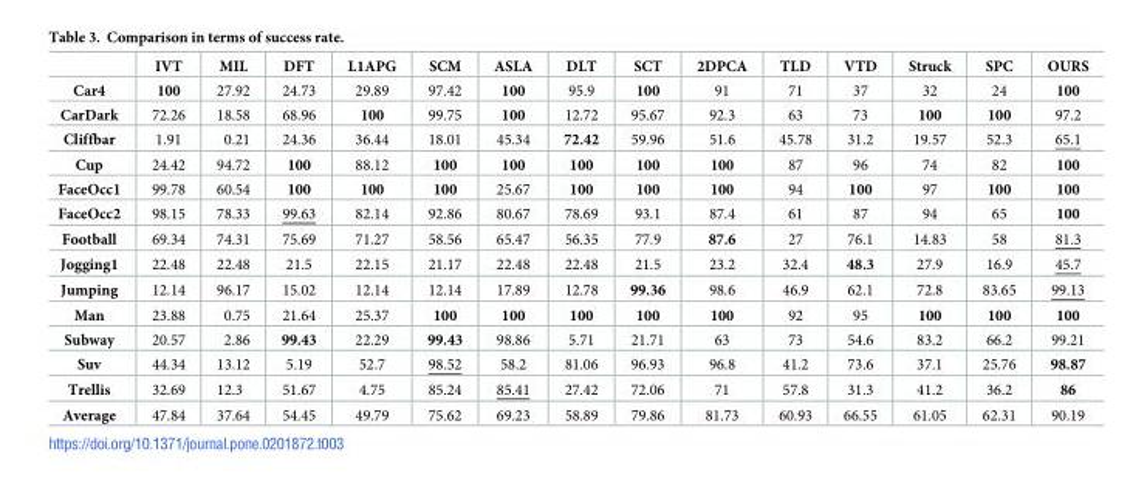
<table><thead><tr><td></td><td>IVT</td><td>MIL</td><td>DFT</td><td>L1APG</td><td>SCM</td><td>ASLA</td><td>DLT</td><td>SCT</td><td>2DPCA</td><td>TLD</td><td>VTD</td><td>Struck</td><td>SPC</td><td>OURS</td></tr></thead><tbody><tr><td>Car4</td><td>100</td><td>27.92</td><td>24.73</td><td>29.89</td><td>97.42</td><td>100</td><td>95.9</td><td>100</td><td>91</td><td>71</td><td>37</td><td>32</td><td>24</td><td>100</td></tr><tr><td>CarDark</td><td>72.26</td><td>18.58</td><td>68.96</td><td>100</td><td>99.75</td><td>100</td><td>12.72</td><td>95.67</td><td>92.3</td><td>63</td><td>73</td><td>100</td><td>100</td><td>97.2</td></tr><tr><td>Cliffbar</td><td>1.91</td><td>0.21</td><td>24.36</td><td>36.44</td><td>18.01</td><td>45.34</td><td>72.42</td><td>59.96</td><td>51.6</td><td>45.78</td><td>31.2</td><td>19.57</td><td>52.3</td><td>65.1</td></tr><tr><td>Cup</td><td>24.42</td><td>94.72</td><td>100</td><td>88.12</td><td>100</td><td>100</td><td>100</td><td>100</td><td>100</td><td>87</td><td>96</td><td>74</td><td>82</td><td>100</td></tr><tr><td>FaceOcc1</td><td>99.78</td><td>60.54</td><td>100</td><td>100</td><td>100</td><td>25.67</td><td>100</td><td>100</td><td>100</td><td>94</td><td>100</td><td>97</td><td>100</td><td>100</td></tr><tr><td>FaceOcc2</td><td>98.15</td><td>78.33</td><td>99.63</td><td>82.14</td><td>92.86</td><td>80.67</td><td>78.69</td><td>93.1</td><td>87.4</td><td>61</td><td>87</td><td>94</td><td>65</td><td>100</td></tr><tr><td>Football</td><td>69.34</td><td>74.31</td><td>75.69</td><td>71.27</td><td>58.56</td><td>65.47</td><td>56.35</td><td>77.9</td><td>87.6</td><td>27</td><td>76.1</td><td>14.83</td><td>58</td><td>81.3</td></tr><tr><td>Jogging1</td><td>22.48</td><td>22.48</td><td>21.5</td><td>22.15</td><td>21.17</td><td>22.48</td><td>22.48</td><td>21.5</td><td>23.2</td><td>32.4</td><td>48.3</td><td>27.9</td><td>16.9</td><td>45.7</td></tr><tr><td>Jumping</td><td>12.14</td><td>96.17</td><td>15.02</td><td>12.14</td><td>12.14</td><td>17.89</td><td>12.78</td><td>99.36</td><td>98.6</td><td>46.9</td><td>62.1</td><td>72.8</td><td>83.65</td><td>99.13</td></tr><tr><td>Man</td><td>23.88</td><td>0.75</td><td>21.64</td><td>25.37</td><td>100</td><td>100</td><td>100</td><td>100</td><td>100</td><td>92</td><td>95</td><td>100</td><td>100</td><td>100</td></tr><tr><td>Subway</td><td>20.57</td><td>2.86</td><td>99.43</td><td>22.29</td><td>99.43</td><td>98.86</td><td>5.71</td><td>21.71</td><td>63</td><td>73</td><td>54.6</td><td>83.2</td><td>66.2</td><td>99.21</td></tr><tr><td>Suv</td><td>44.34</td><td>13.12</td><td>5.19</td><td>52.7</td><td>98.52</td><td>58.2</td><td>81.06</td><td>96.93</td><td>96.8</td><td>41.2</td><td>73.6</td><td>37.1</td><td>25.76</td><td>98.87</td></tr><tr><td>Trellis</td><td>32.69</td><td>12.3</td><td>51.67</td><td>4.75</td><td>85.24</td><td>85.41</td><td>27.42</td><td>72.06</td><td>71</td><td>57.8</td><td>31.3</td><td>41.2</td><td>36.2</td><td>86</td></tr><tr><td>Average</td><td>47.84</td><td>37.64</td><td>54.45</td><td>49.79</td><td>75.62</td><td>69.23</td><td>58.89</td><td>79.86</td><td>81.73</td><td>60.93</td><td>66.55</td><td>61.05</td><td>62.31</td><td>90.19</td></tr></tbody></table>